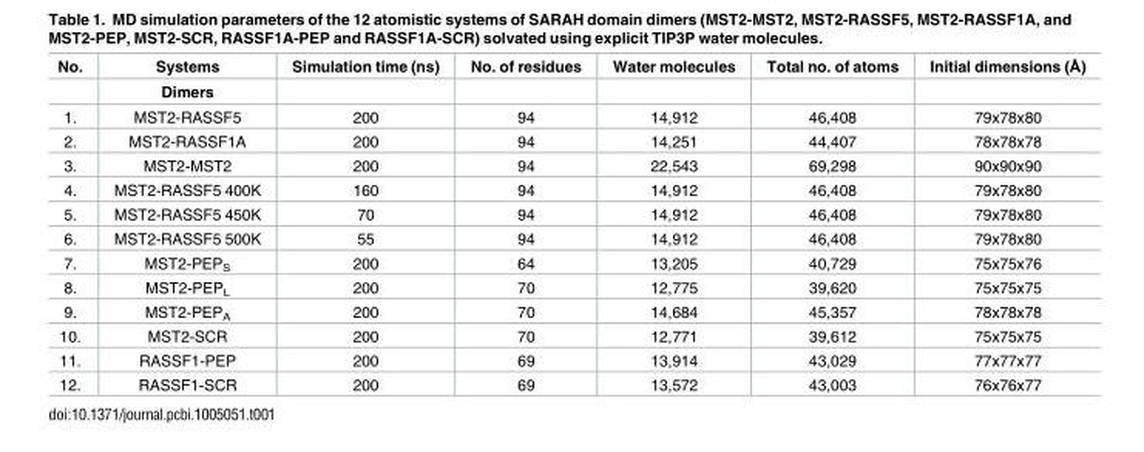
<table><thead><tr><td rowspan="2">No.</td><td rowspan="2">Systems Dimers</td><td rowspan="2">Simulation time (ns)</td><td rowspan="2">No. of residues</td><td rowspan="2">Water molecules</td><td rowspan="2">Total no. of atoms</td><td rowspan="2">Initial dimensions (Å)</td></tr><tr></tr></thead><tbody><tr><td>1.</td><td>MST2-RASSF5</td><td>200</td><td>94</td><td>14,912</td><td>46,408</td><td>79x78x80</td></tr><tr><td>2.</td><td>MST2-RASSF1A</td><td>200</td><td>94</td><td>14,251</td><td>44,407</td><td>78x78x78</td></tr><tr><td>3.</td><td>MST2-MST2</td><td>200</td><td>94</td><td>22,543</td><td>69,298</td><td>90x90x90</td></tr><tr><td>4.</td><td>MST2-RASSF5 400K</td><td>160</td><td>94</td><td>14,912</td><td>46,408</td><td>79x78x80</td></tr><tr><td>5.</td><td>MST2-RASSF5 450K</td><td>70</td><td>94</td><td>14,912</td><td>46,408</td><td>79x78x80</td></tr><tr><td>6.</td><td>MST2-RASSF5 500K</td><td>55</td><td>94</td><td>14,912</td><td>46,408</td><td>79x78x80</td></tr><tr><td>7.</td><td>MST2-PEP<sub>S</sub></td><td>200</td><td>64</td><td>13,205</td><td>40,729</td><td>75x75x76</td></tr><tr><td>8.</td><td>MST2-PEP<sub>L</sub></td><td>200</td><td>70</td><td>12,775</td><td>39,620</td><td>75x75x75</td></tr><tr><td>9.</td><td>MST2-PEP<sub>A</sub></td><td>200</td><td>70</td><td>14,684</td><td>45,357</td><td>78x78x78</td></tr><tr><td>10.</td><td>MST2-SCR</td><td>200</td><td>70</td><td>12,771</td><td>39,612</td><td>75x75x75</td></tr><tr><td>11.</td><td>RASSF1-PEP</td><td>200</td><td>69</td><td>13,914</td><td>43,029</td><td>77x77x77</td></tr><tr><td>12.</td><td>RASSF1-SCR</td><td>200</td><td>69</td><td>13,572</td><td>43,003</td><td>76x76x77</td></tr></tbody></table>